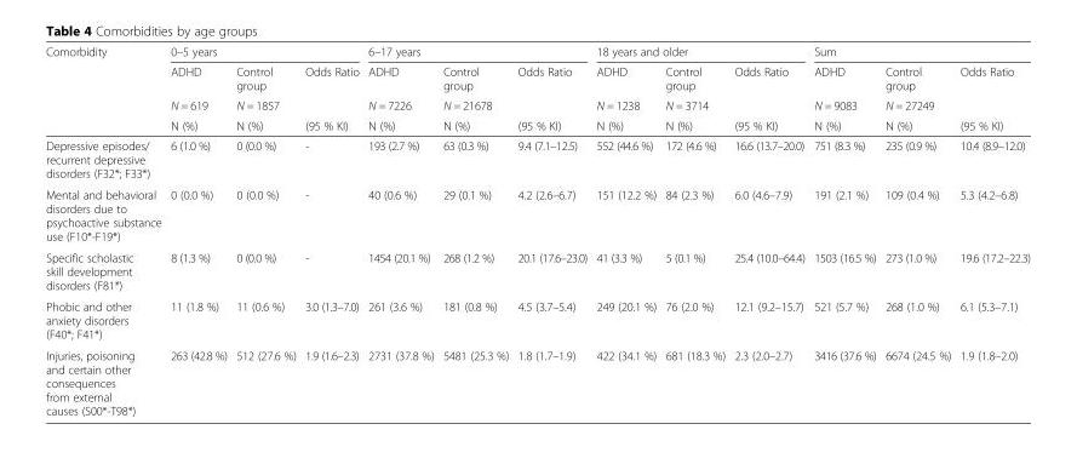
<table><thead><tr><td rowspan="4">Comorbidity</td><td colspan="3">0–5 years</td><td colspan="3">6–17 years</td><td colspan="3">18 years and older</td><td colspan="3">Sum</td></tr><tr><td rowspan="3">ADHD N = 619 N (%)</td><td rowspan="3">Control group N = 1857 N (%)</td><td rowspan="3">Odds Ratio (95 % KI)</td><td rowspan="3">ADHD N = 7226 N (%)</td><td rowspan="3">Control group N = 21678 N (%)</td><td rowspan="3">Odds Ratio (95 % KI)</td><td rowspan="3">ADHD N = 1238 N (%)</td><td rowspan="3">Control group N = 3714 N (%)</td><td rowspan="3">Odds Ratio (95 % KI)</td><td rowspan="3">ADHD N = 9083 N (%)</td><td rowspan="3">Control group N = 27249 N (%)</td><td rowspan="3">Odds Ratio (95 % KI)</td></tr><tr></tr><tr></tr></thead><tbody><tr><td>Depressive episodes/ recurrent depressive disorders (F32*; F33*)</td><td>6 (1.0 %)</td><td>0 (0.0 %)</td><td>-</td><td>193 (2.7 %)</td><td>63 (0.3 %)</td><td>9.4 (7.1–12.5)</td><td>552 (44.6 %)</td><td>172 (4.6 %)</td><td>16.6 (13.7–20.0)</td><td>751 (8.3 %)</td><td>235 (0.9 %)</td><td>10.4 (8.9–12.0)</td></tr><tr><td>Mental and behavioral disorders due to psychoactive substance use (F10*-F19*)</td><td>0 (0.0 %)</td><td>0 (0.0 %)</td><td>-</td><td>40 (0.6 %)</td><td>29 (0.1 %)</td><td>4.2 (2.6–6.7)</td><td>151 (12.2 %)</td><td>84 (2.3 %)</td><td>6.0 (4.6–7.9)</td><td>191 (2.1 %)</td><td>109 (0.4 %)</td><td>5.3 (4.2–6.8)</td></tr><tr><td>Specific scholastic skill development disorders (F81*)</td><td>8 (1.3 %)</td><td>0 (0.0 %)</td><td>-</td><td>1454 (20.1 %)</td><td>268 (1.2 %)</td><td>20.1 (17.6–23.0)</td><td>41 (3.3 %)</td><td>5 (0.1 %)</td><td>25.4 (10.0–64.4)</td><td>1503 (16.5 %)</td><td>273 (1.0 %)</td><td>19.6 (17.2–22.3)</td></tr><tr><td>Phobic and other anxiety disorders (F40*; F41*)</td><td>11 (1.8 %)</td><td>11 (0.6 %)</td><td>3.0 (1.3–7.0)</td><td>261 (3.6 %)</td><td>181 (0.8 %)</td><td>4.5 (3.7–5.4)</td><td>249 (20.1 %)</td><td>76 (2.0 %)</td><td>12.1 (9.2–15.7)</td><td>521 (5.7 %)</td><td>268 (1.0 %)</td><td>6.1 (5.3–7.1)</td></tr><tr><td>Injuries, poisoning and certain other consequences from external causes (S00*-T98*)</td><td>263 (42.8 %)</td><td>512 (27.6 %)</td><td>1.9 (1.6–2.3)</td><td>2731 (37.8 %)</td><td>5481 (25.3 %)</td><td>1.8 (1.7–1.9)</td><td>422 (34.1 %)</td><td>681 (18.3 %)</td><td>2.3 (2.0–2.7)</td><td>3416 (37.6 %)</td><td>6674 (24.5 %)</td><td>1.9 (1.8–2.0)</td></tr></tbody></table>